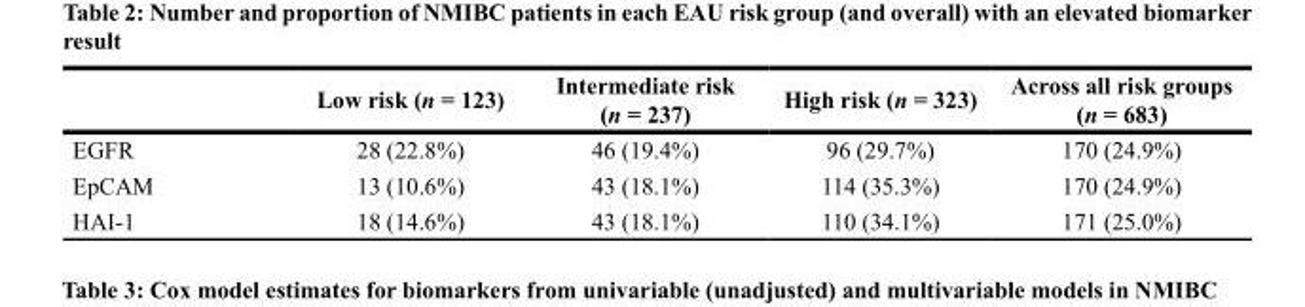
<table><thead><tr><td></td><td>Low risk (n = 123)</td><td>Intermediate risk (n = 237)</td><td>High risk (n = 323)</td><td>Across all risk groups (n = 683)</td></tr></thead><tbody><tr><td>EGFR</td><td>28 (22.8%)</td><td>46 (19.4%)</td><td>96 (29.7%)</td><td>170 (24.9%)</td></tr><tr><td>EpCAM</td><td>13 (10.6%)</td><td>43 (18.1%)</td><td>114 (35.3%)</td><td>170 (24.9%)</td></tr><tr><td>HAI-1</td><td>18 (14.6%)</td><td>43 (18.1%)</td><td>110 (34.1%)</td><td>171 (25.0%)</td></tr></tbody></table>